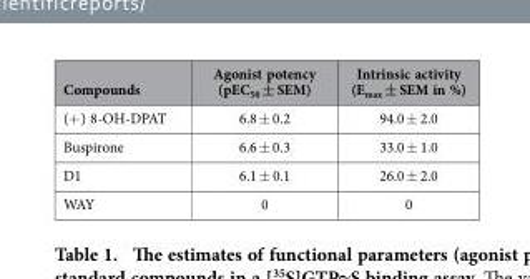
<table><thead><tr><td>Compounds</td><td>Agonist potency (pEC<sub>50</sub> ± SEM)</td><td>Intrinsic activity (E<sub>max</sub> ± SEM in %)</td></tr></thead><tbody><tr><td>(+ ) 8-OH-DPAT</td><td>6.8 ± 0.2</td><td>94.0 ± 2.0</td></tr><tr><td>Buspirone</td><td>6.6 ± 0.3</td><td>33.0 ± 1.0</td></tr><tr><td>D1</td><td>6.1 ± 0.1</td><td>26.0 ± 2.0</td></tr><tr><td>WAY</td><td>0</td><td>0</td></tr></tbody></table>